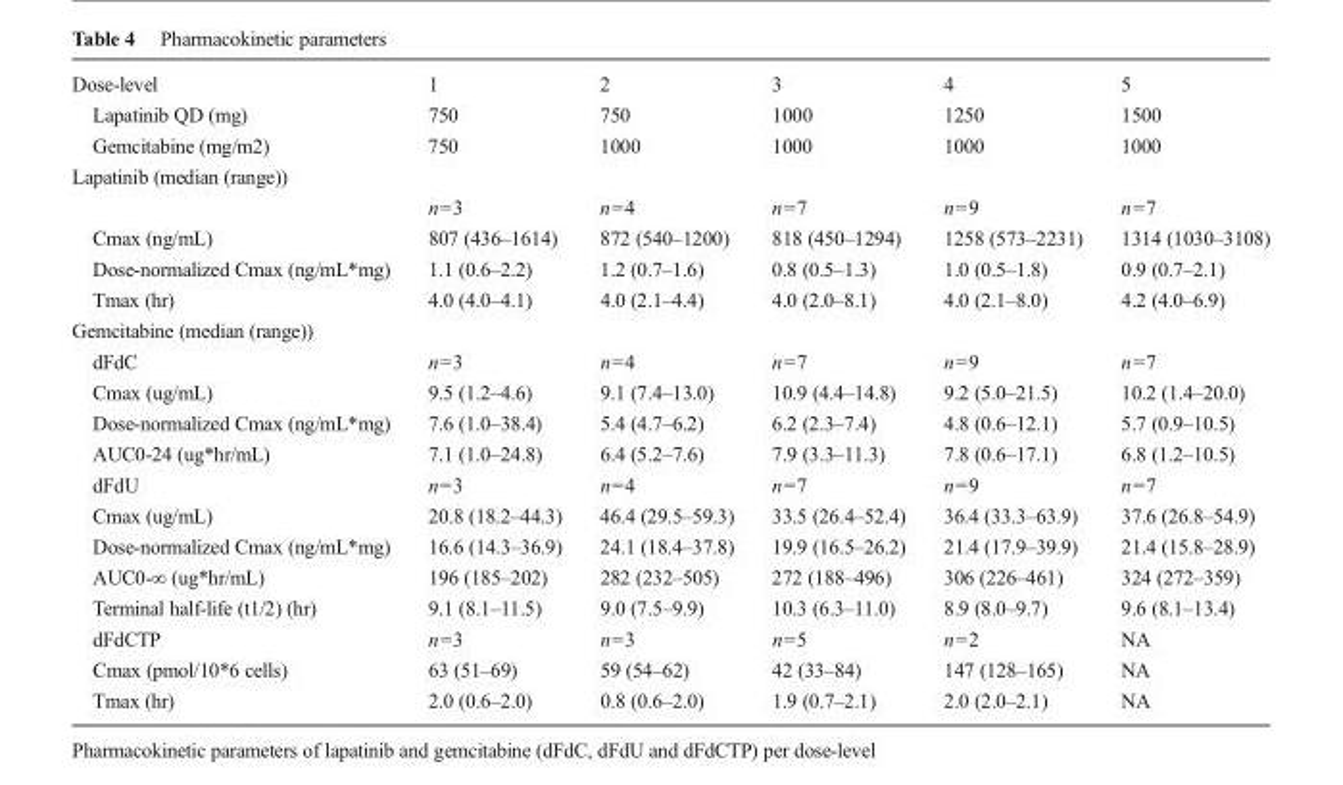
<table><tbody><tr><td>Dose-level</td><td>1</td><td>2</td><td>3</td><td>4</td><td>5</td></tr><tr><td>Lapatinib QD (mg)</td><td>750</td><td>750</td><td>1000</td><td>1250</td><td>1500</td></tr><tr><td>Gemcitabine (mg/m2)</td><td>750</td><td>1000</td><td>1000</td><td>1000</td><td>1000</td></tr><tr><td colspan="6">Lapatinib (median (range))</td></tr><tr><td></td><td>n=3</td><td>n=4</td><td>n=7</td><td>n=9</td><td>n=7</td></tr><tr><td>Cmax (ng/mL)</td><td>807 (436–1614)</td><td>872 (540–1200)</td><td>818 (450–1294)</td><td>1258 (573–2231)</td><td>1314 (1030–3108)</td></tr><tr><td>Dose-normalized Cmax (ng/mL*mg)</td><td>1.1 (0.6–2.2)</td><td>1.2 (0.7–1.6)</td><td>0.8 (0.5–1.3)</td><td>1.0 (0.5–1.8)</td><td>0.9 (0.7–2.1)</td></tr><tr><td>Tmax (hr)</td><td>4.0 (4.0–4.1)</td><td>4.0 (2.1–4.4)</td><td>4.0 (2.0–8.1)</td><td>4.0 (2.1–8.0)</td><td>4.2 (4.0–6.9)</td></tr><tr><td colspan="6">Gemcitabine (median (range))</td></tr><tr><td>dFdC</td><td>n=3</td><td>n=4</td><td>n=7</td><td>n=9</td><td>n=7</td></tr><tr><td>Cmax (ug/mL)</td><td>9.5 (1.2–4.6)</td><td>9.1 (7.4–13.0)</td><td>10.9 (4.4–14.8)</td><td>9.2 (5.0–21.5)</td><td>10.2 (1.4–20.0)</td></tr><tr><td>Dose-normalized Cmax (ng/mL*mg)</td><td>7.6 (1.0–38.4)</td><td>5.4 (4.7–6.2)</td><td>6.2 (2.3–7.4)</td><td>4.8 (0.6–12.1)</td><td>5.7 (0.9–10.5)</td></tr><tr><td>AUC0-24 (ug*hr/mL)</td><td>7.1 (1.0–24.8)</td><td>6.4 (5.2–7.6)</td><td>7.9 (3.3–11.3)</td><td>7.8 (0.6–17.1)</td><td>6.8 (1.2–10.5)</td></tr><tr><td>dFdU</td><td>n=3</td><td>n=4</td><td>n=7</td><td>n=9</td><td>n=7</td></tr><tr><td>Cmax (ug/mL)</td><td>20.8 (18.2–44.3)</td><td>46.4 (29.5–59.3)</td><td>33.5 (26.4–52.4)</td><td>36.4 (33.3–63.9)</td><td>37.6 (26.8–54.9)</td></tr><tr><td>Dose-normalized Cmax (ng/mL*mg)</td><td>16.6 (14.3–36.9)</td><td>24.1 (18.4–37.8)</td><td>19.9 (16.5–26.2)</td><td>21.4 (17.9–39.9)</td><td>21.4 (15.8–28.9)</td></tr><tr><td>AUC0-∞ (ug*hr/mL)</td><td>196 (185–202)</td><td>282 (232–505)</td><td>272 (188–496)</td><td>306 (226–461)</td><td>324 (272–359)</td></tr><tr><td>Terminal half-life (t1/2) (hr)</td><td>9.1 (8.1–11.5)</td><td>9.0 (7.5–9.9)</td><td>10.3 (6.3–11.0)</td><td>8.9 (8.0–9.7)</td><td>9.6 (8.1–13.4)</td></tr><tr><td>dFdCTP</td><td>n=3</td><td>n=3</td><td>n=5</td><td>n=2</td><td>NA</td></tr><tr><td>Cmax (pmol/10*6 cells)</td><td>63 (51–69)</td><td>59 (54–62)</td><td>42 (33–84)</td><td>147 (128–165)</td><td>NA</td></tr><tr><td>Tmax (hr)</td><td>2.0 (0.6–2.0)</td><td>0.8 (0.6–2.0)</td><td>1.9 (0.7–2.1)</td><td>2.0 (2.0–2.1)</td><td>NA</td></tr></tbody></table>